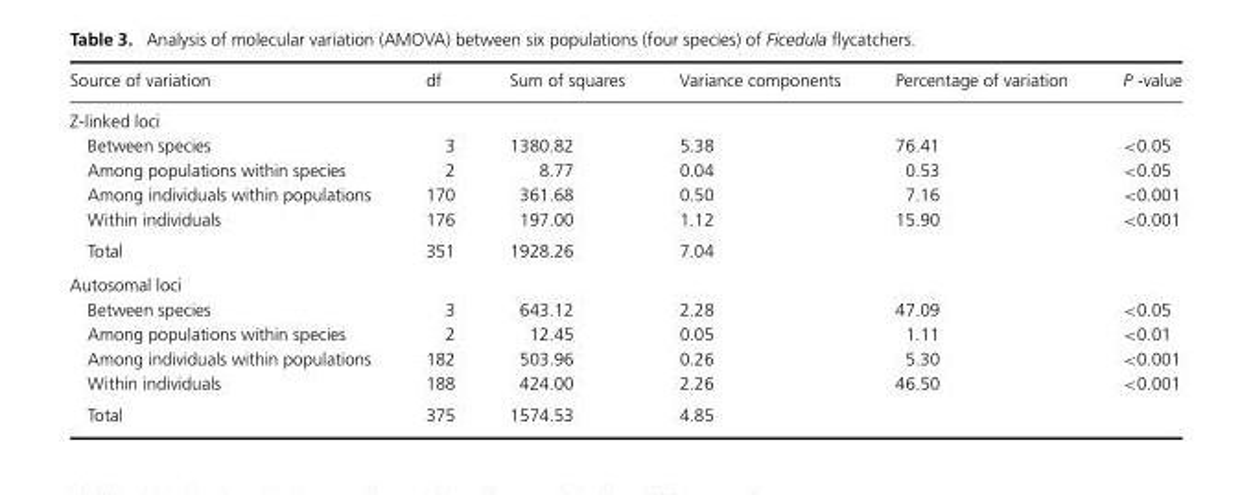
<table><thead><tr><td>Source of variation</td><td>df</td><td>Sum of squares</td><td>Variance components</td><td>Percentage of variation</td><td>P -value</td></tr></thead><tbody><tr><td colspan="6">Z-linked loci</td></tr><tr><td>Between species</td><td>3</td><td>1380.82</td><td>5.38</td><td>76.41</td><td>&lt;0.05</td></tr><tr><td>Among populations within species</td><td>2</td><td>8.77</td><td>0.04</td><td>0.53</td><td>&lt;0.05</td></tr><tr><td>Among individuals within populations</td><td>170</td><td>361.68</td><td>0.50</td><td>7.16</td><td>&lt;0.001</td></tr><tr><td>Within individuals</td><td>176</td><td>197.00</td><td>1.12</td><td>15.90</td><td>&lt;0.001</td></tr><tr><td>Total</td><td>351</td><td>1928.26</td><td>7.04</td><td></td><td></td></tr><tr><td colspan="6">Autosomal loci</td></tr><tr><td>Between species</td><td>3</td><td>643.12</td><td>2.28</td><td>47.09</td><td>&lt;0.05</td></tr><tr><td>Among populations within species</td><td>2</td><td>12.45</td><td>0.05</td><td>1.11</td><td>&lt;0.01</td></tr><tr><td>Among individuals within populations</td><td>182</td><td>503.96</td><td>0.26</td><td>5.30</td><td>&lt;0.001</td></tr><tr><td>Within individuals</td><td>188</td><td>424.00</td><td>2.26</td><td>46.50</td><td>&lt;0.001</td></tr><tr><td>Total</td><td>375</td><td>1574.53</td><td>4.85</td><td></td><td></td></tr></tbody></table>